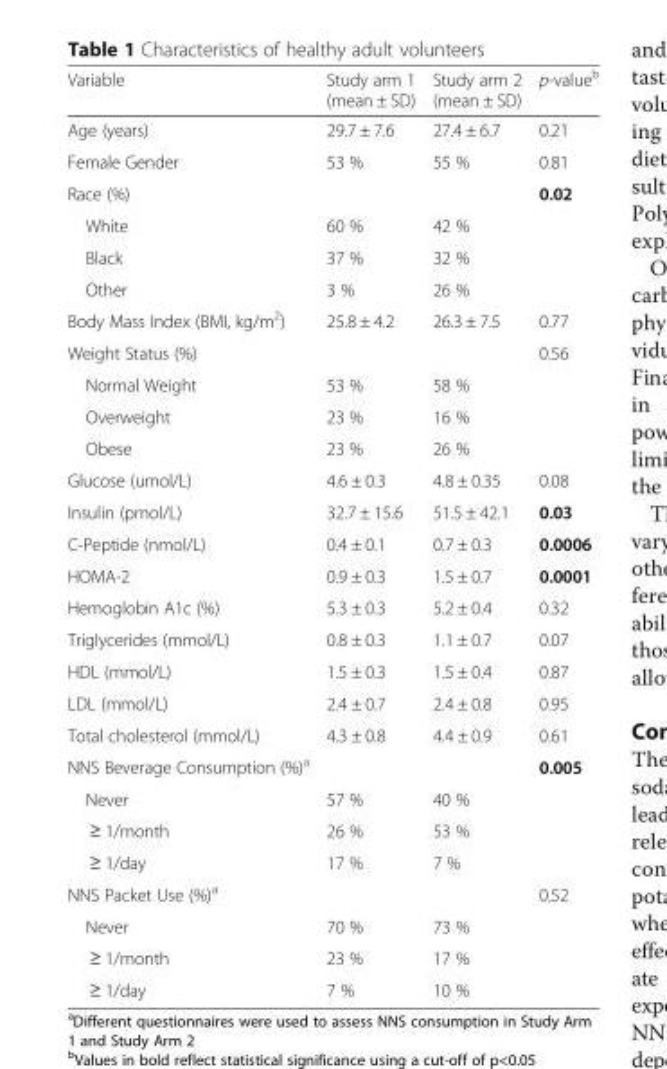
<table><thead><tr><td>Variable</td><td>Study arm 1 (mean ± SD)</td><td>Study arm 2 (mean ± SD)</td><td>p-value<sup>b</sup></td></tr></thead><tbody><tr><td>Age (years)</td><td>29.7 ± 7.6</td><td>27.4 ± 6.7</td><td>0.21</td></tr><tr><td>Female Gender</td><td>53 %</td><td>55 %</td><td>0.81</td></tr><tr><td>Race (%)</td><td></td><td></td><td>0.02</td></tr><tr><td>White</td><td>60 %</td><td>42 %</td><td></td></tr><tr><td>Black</td><td>37 %</td><td>32 %</td><td></td></tr><tr><td>Other</td><td>3 %</td><td>26 %</td><td></td></tr><tr><td>Body Mass Index (BMI, kg/m<sup>2</sup>)</td><td>25.8 ± 4.2</td><td>26.3 ± 7.5</td><td>0.77</td></tr><tr><td>Weight Status (%)</td><td></td><td></td><td>0.56</td></tr><tr><td>Normal Weight</td><td>53 %</td><td>58 %</td><td></td></tr><tr><td>Overweight</td><td>23 %</td><td>16 %</td><td></td></tr><tr><td>Obese</td><td>23 %</td><td>26 %</td><td></td></tr><tr><td>Glucose (umol/L)</td><td>4.6 ± 0.3</td><td>4.8 ± 0.35</td><td>0.08</td></tr><tr><td>Insulin (pmol/L)</td><td>32.7 ± 15.6</td><td>51.5 ± 42.1</td><td>0.03</td></tr><tr><td>C-Peptide (nmol/L)</td><td>0.4 ± 0.1</td><td>0.7 ± 0.3</td><td>0.0006</td></tr><tr><td>HOMA-2</td><td>0.9 ± 0.3</td><td>1.5 ± 0.7</td><td>0.0001</td></tr><tr><td>Hemoglobin A1c (%)</td><td>5.3 ± 0.3</td><td>5.2 ± 0.4</td><td>0.32</td></tr><tr><td>Triglycerides (mmol/L)</td><td>0.8 ± 0.3</td><td>1.1 ± 0.7</td><td>0.07</td></tr><tr><td>HDL (mmol/L)</td><td>1.5 ± 0.3</td><td>1.5 ± 0.4</td><td>0.87</td></tr><tr><td>LDL (mmol/L)</td><td>2.4 ± 0.7</td><td>2.4 ± 0.8</td><td>0.95</td></tr><tr><td>Total cholesterol (mmol/L)</td><td>4.3 ± 0.8</td><td>4.4 ± 0.9</td><td>0.61</td></tr><tr><td>NNS Beverage Consumption (%)<sup>a</sup></td><td></td><td></td><td>0.005</td></tr><tr><td>Never</td><td>57 %</td><td>40 %</td><td></td></tr><tr><td>≥ 1/month</td><td>26 %</td><td>53 %</td><td></td></tr><tr><td>≥ 1/day</td><td>17 %</td><td>7 %</td><td></td></tr><tr><td>NNS Packet Use (%)<sup>a</sup></td><td></td><td></td><td>0.52</td></tr><tr><td>Never</td><td>70 %</td><td>73 %</td><td></td></tr><tr><td>≥ 1/month</td><td>23 %</td><td>17 %</td><td></td></tr><tr><td>≥ 1/day</td><td>7 %</td><td>10 %</td><td></td></tr></tbody></table>